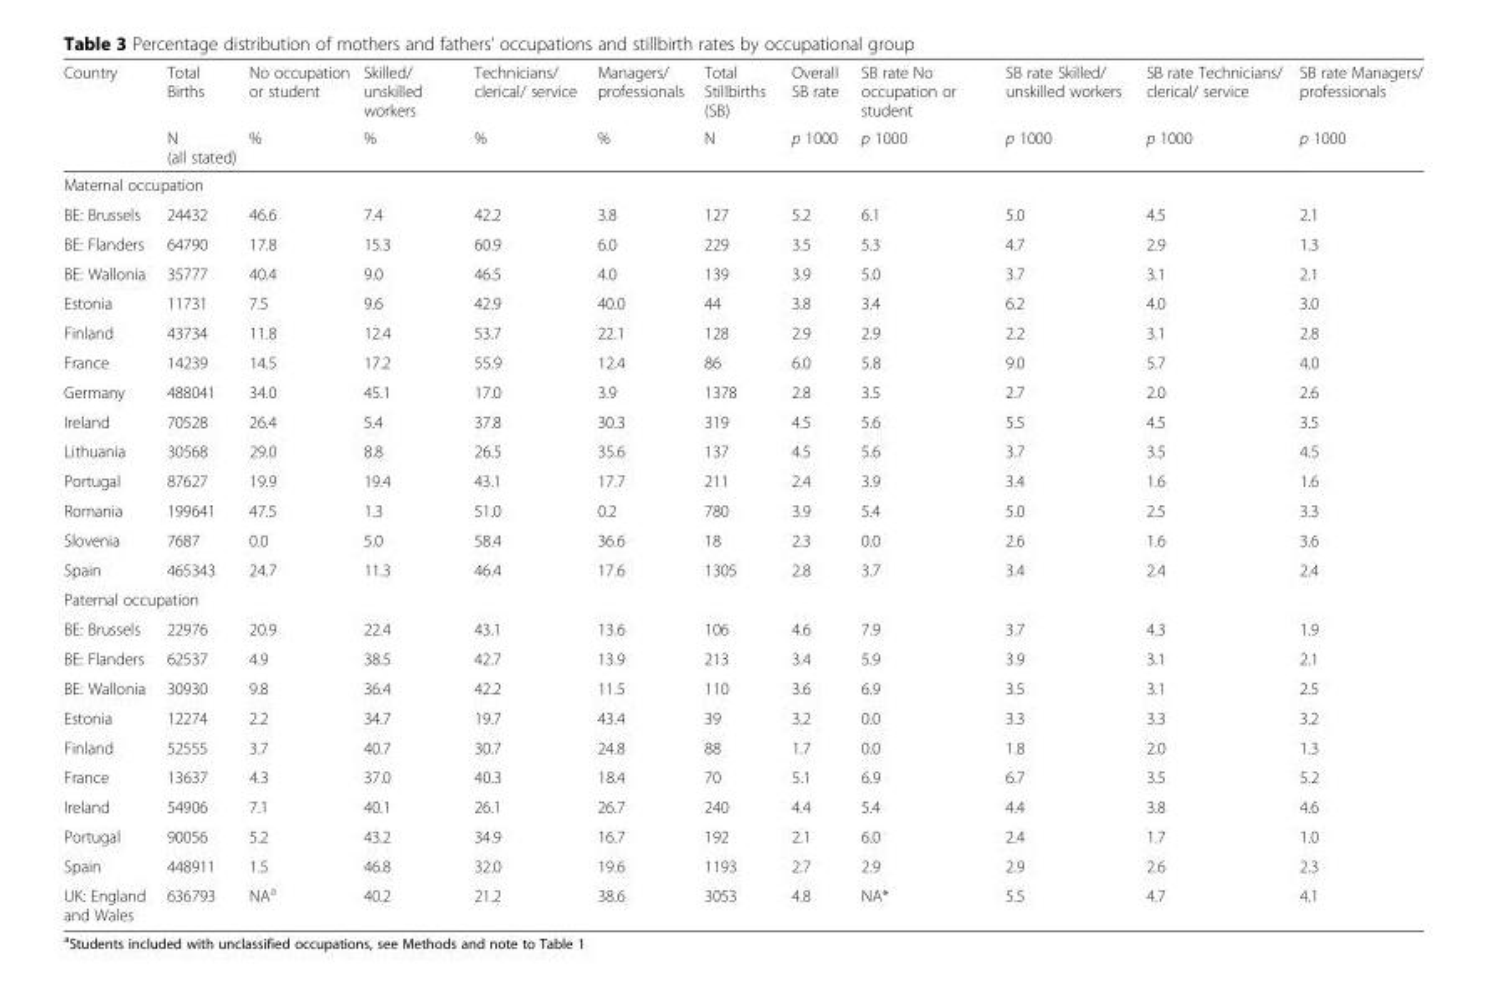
<table><thead><tr><td rowspan="2">Country</td><td rowspan="2">Total Births N (all stated)</td><td rowspan="2">No occupation or student %</td><td rowspan="2">Skilled/ unskilled workers %</td><td rowspan="2">Technicians/ clerical/ service %</td><td rowspan="2">Managers/ professionals %</td><td rowspan="2">Total Stillbirths (SB) N</td><td rowspan="2">Overall SB rate p 1000</td><td rowspan="2">SB rate No occupation or student p 1000</td><td rowspan="2">SB rate Skilled/ unskilled workers p 1000</td><td rowspan="2">SB rate Technicians/ clerical/ service p 1000</td><td rowspan="2">SB rate Managers/ professionals p 1000</td></tr><tr></tr></thead><tbody><tr><td colspan="12">Maternal occupation</td></tr><tr><td>BE: Brussels</td><td>24432</td><td>46.6</td><td>7.4</td><td>42.2</td><td>3.8</td><td>127</td><td>5.2</td><td>6.1</td><td>5.0</td><td>4.5</td><td>2.1</td></tr><tr><td>BE: Flanders</td><td>64790</td><td>17.8</td><td>15.3</td><td>60.9</td><td>6.0</td><td>229</td><td>3.5</td><td>5.3</td><td>4.7</td><td>2.9</td><td>1.3</td></tr><tr><td>BE: Wallonia</td><td>35777</td><td>40.4</td><td>9.0</td><td>46.5</td><td>4.0</td><td>139</td><td>3.9</td><td>5.0</td><td>3.7</td><td>3.1</td><td>2.1</td></tr><tr><td>Estonia</td><td>11731</td><td>7.5</td><td>9.6</td><td>42.9</td><td>40.0</td><td>44</td><td>3.8</td><td>3.4</td><td>6.2</td><td>4.0</td><td>3.0</td></tr><tr><td>Finland</td><td>43734</td><td>11.8</td><td>12.4</td><td>53.7</td><td>22.1</td><td>128</td><td>2.9</td><td>2.9</td><td>2.2</td><td>3.1</td><td>2.8</td></tr><tr><td>France</td><td>14239</td><td>14.5</td><td>17.2</td><td>55.9</td><td>12.4</td><td>86</td><td>6.0</td><td>5.8</td><td>9.0</td><td>5.7</td><td>4.0</td></tr><tr><td>Germany</td><td>488041</td><td>34.0</td><td>45.1</td><td>17.0</td><td>3.9</td><td>1378</td><td>2.8</td><td>3.5</td><td>2.7</td><td>2.0</td><td>2.6</td></tr><tr><td>Ireland</td><td>70528</td><td>26.4</td><td>5.4</td><td>37.8</td><td>30.3</td><td>319</td><td>4.5</td><td>5.6</td><td>5.5</td><td>4.5</td><td>3.5</td></tr><tr><td>Lithuania</td><td>30568</td><td>29.0</td><td>8.8</td><td>26.5</td><td>35.6</td><td>137</td><td>4.5</td><td>5.6</td><td>3.7</td><td>3.5</td><td>4.5</td></tr><tr><td>Portugal</td><td>87627</td><td>19.9</td><td>19.4</td><td>43.1</td><td>17.7</td><td>211</td><td>2.4</td><td>3.9</td><td>3.4</td><td>1.6</td><td>1.6</td></tr><tr><td>Romania</td><td>199641</td><td>47.5</td><td>1.3</td><td>51.0</td><td>0.2</td><td>780</td><td>3.9</td><td>5.4</td><td>5.0</td><td>2.5</td><td>3.3</td></tr><tr><td>Slovenia</td><td>7687</td><td>0.0</td><td>5.0</td><td>58.4</td><td>36.6</td><td>18</td><td>2.3</td><td>0.0</td><td>2.6</td><td>1.6</td><td>3.6</td></tr><tr><td>Spain</td><td>465343</td><td>24.7</td><td>11.3</td><td>46.4</td><td>17.6</td><td>1305</td><td>2.8</td><td>3.7</td><td>3.4</td><td>2.4</td><td>2.4</td></tr><tr><td colspan="12">Paternal occupation</td></tr><tr><td>BE: Brussels</td><td>22976</td><td>20.9</td><td>22.4</td><td>43.1</td><td>13.6</td><td>106</td><td>4.6</td><td>7.9</td><td>3.7</td><td>4.3</td><td>1.9</td></tr><tr><td>BE: Flanders</td><td>62537</td><td>4.9</td><td>38.5</td><td>42.7</td><td>13.9</td><td>213</td><td>3.4</td><td>5.9</td><td>3.9</td><td>3.1</td><td>2.1</td></tr><tr><td>BE: Wallonia</td><td>30930</td><td>9.8</td><td>36.4</td><td>42.2</td><td>11.5</td><td>110</td><td>3.6</td><td>6.9</td><td>3.5</td><td>3.1</td><td>2.5</td></tr><tr><td>Estonia</td><td>12274</td><td>2.2</td><td>34.7</td><td>19.7</td><td>43.4</td><td>39</td><td>3.2</td><td>0.0</td><td>3.3</td><td>3.3</td><td>3.2</td></tr><tr><td>Finland</td><td>52555</td><td>3.7</td><td>40.7</td><td>30.7</td><td>24.8</td><td>88</td><td>1.7</td><td>0.0</td><td>1.8</td><td>2.0</td><td>1.3</td></tr><tr><td>France</td><td>13637</td><td>4.3</td><td>37.0</td><td>40.3</td><td>18.4</td><td>70</td><td>5.1</td><td>6.9</td><td>6.7</td><td>3.5</td><td>5.2</td></tr><tr><td>Ireland</td><td>54906</td><td>7.1</td><td>40.1</td><td>26.1</td><td>26.7</td><td>240</td><td>4.4</td><td>5.4</td><td>4.4</td><td>3.8</td><td>4.6</td></tr><tr><td>Portugal</td><td>90056</td><td>5.2</td><td>43.2</td><td>34.9</td><td>16.7</td><td>192</td><td>2.1</td><td>6.0</td><td>2.4</td><td>1.7</td><td>1.0</td></tr><tr><td>Spain</td><td>448911</td><td>1.5</td><td>46.8</td><td>32.0</td><td>19.6</td><td>1193</td><td>2.7</td><td>2.9</td><td>2.9</td><td>2.6</td><td>2.3</td></tr><tr><td>UK: England and Wales</td><td>636793</td><td>NA<sup>a</sup></td><td>40.2</td><td>21.2</td><td>38.6</td><td>3053</td><td>4.8</td><td>NA*</td><td>5.5</td><td>4.7</td><td>4.1</td></tr></tbody></table>